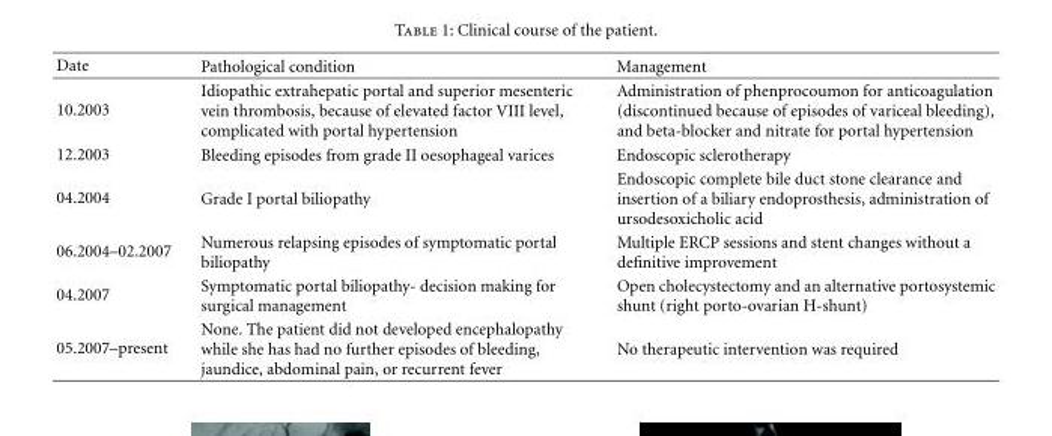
<table><thead><tr><td>Date</td><td>Pathological condition</td><td>Management</td></tr></thead><tbody><tr><td>10.2003</td><td>Idiopathic extrahepatic portal and superior mesenteric vein thrombosis, because of elevated factor VIII level, complicated with portal hypertension</td><td>Administration of phenprocoumon for anticoagulation (discontinued because of episodes of variceal bleeding), and beta-blocker and nitrate for portal hypertension</td></tr><tr><td>12.2003</td><td>Bleeding episodes from grade II oesophageal varices</td><td>Endoscopic sclerotherapy</td></tr><tr><td>04.2004</td><td>Grade I portal biliopathy</td><td>Endoscopic complete bile duct stone clearance and insertion of a biliary endoprosthesis, administration of ursodesoxicholic acid</td></tr><tr><td>06.2004–02.2007</td><td>Numerous relapsing episodes of symptomatic portal biliopathy</td><td>Multiple ERCP sessions and stent changes without a definitive improvement</td></tr><tr><td>04.2007</td><td>Symptomatic portal biliopathy- decision making for surgical management</td><td>Open cholecystectomy and an alternative portosystemic shunt (right porto-ovarian H-shunt)</td></tr><tr><td>05.2007–present</td><td>None. The patient did not developed encephalopathy while she has had no further episodes of bleeding, jaundice, abdominal pain, or recurrent fever</td><td>No therapeutic intervention was required</td></tr></tbody></table>